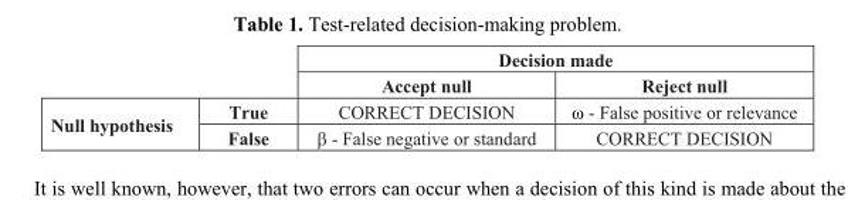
<table><thead><tr><td rowspan="2"></td><td rowspan="2"></td><td colspan="2">Decision made</td></tr><tr><td>Accept null</td><td>Reject null</td></tr></thead><tbody><tr><td rowspan="2">Null hypothesis</td><td>True</td><td>CORRECT DECISION</td><td>ω - False positive or relevance</td></tr><tr><td>False</td><td>β - False negative or standard</td><td>CORRECT DECISION</td></tr></tbody></table>